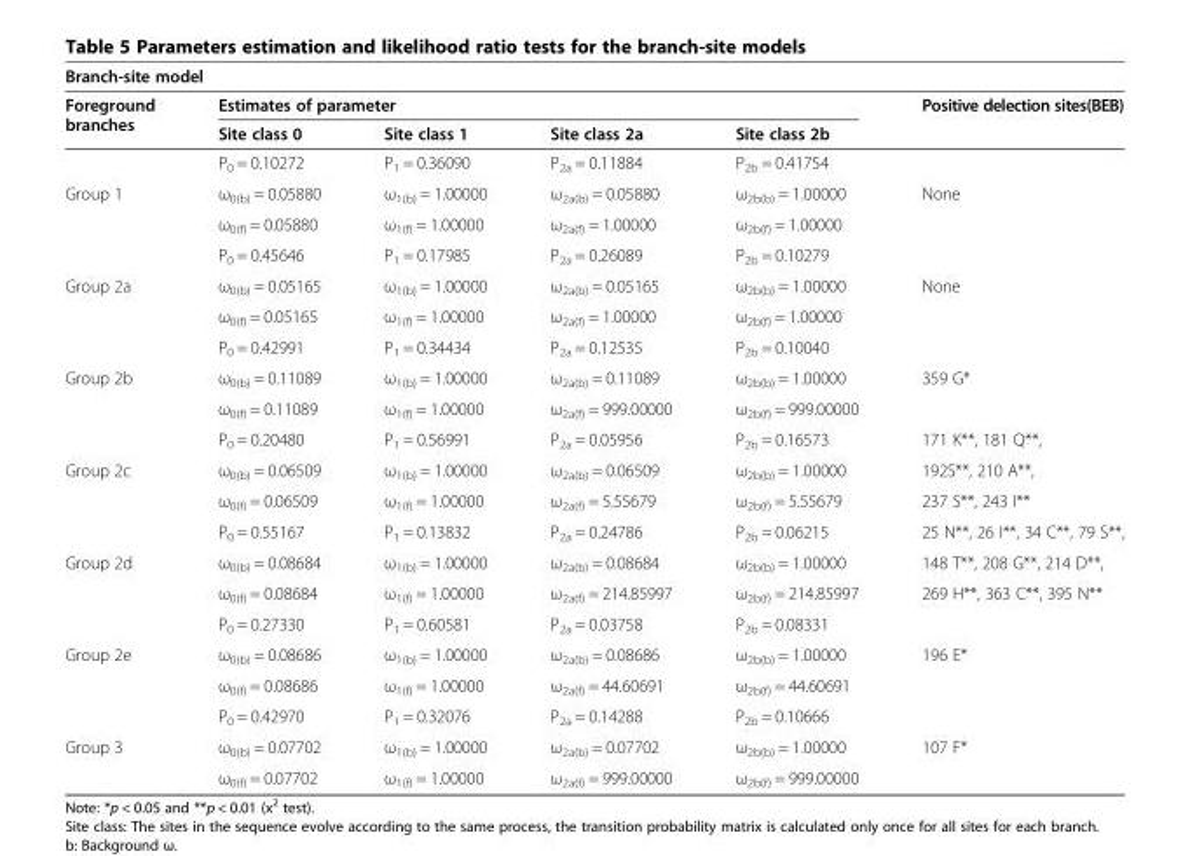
<table><thead><tr><td colspan="6">Branch-site model</td></tr><tr><td rowspan="2">Foreground branches</td><td colspan="4">Estimates of parameter</td><td rowspan="2">Positive delection sites(BEB)</td></tr><tr><td>Site class 0</td><td>Site class 1</td><td>Site class 2a</td><td>Site class 2b</td></tr></thead><tbody><tr><td></td><td>P<sub>0</sub> = 0.10272</td><td>P<sub>1</sub> = 0.36090</td><td>P<sub>2a</sub> = 0.11884</td><td>P<sub>2b</sub> = 0.41754</td><td></td></tr><tr><td rowspan="3">Group 1</td><td>ω<sub>0(b)</sub> = 0.05880</td><td>ω<sub>1(b)</sub> = 1.00000</td><td>ω<sub>2a(b)</sub> = 0.05880</td><td>ω<sub>2b(b)</sub> = 1.00000</td><td>None</td></tr><tr><td>ω<sub>0(f)</sub> = 0.05880</td><td>ω<sub>1(f)</sub> = 1.00000</td><td>ω<sub>2a(f)</sub> = 1.00000</td><td>ω<sub>2b(f)</sub> = 1.00000</td><td></td></tr><tr><td>P<sub>0</sub> = 0.45646</td><td>P<sub>1</sub> = 0.17985</td><td>P<sub>2a</sub> = 0.26089</td><td>P<sub>2b</sub> = 0.10279</td><td></td></tr><tr><td rowspan="3">Group 2a</td><td>ω<sub>0(b)</sub> = 0.05165</td><td>ω<sub>1(b)</sub> = 1.00000</td><td>ω<sub>2a(b)</sub> = 0.05165</td><td>ω<sub>2b(b)</sub> = 1.00000</td><td>None</td></tr><tr><td>ω<sub>0(f)</sub> = 0.05165</td><td>ω<sub>1(f)</sub> = 1.00000</td><td>ω<sub>2a(f)</sub> = 1.00000</td><td>ω<sub>2b(f)</sub> = 1.00000</td><td></td></tr><tr><td>P<sub>0</sub> = 0.42991</td><td>P<sub>1</sub> = 0.34434</td><td>P<sub>2a</sub> = 0.12535</td><td>P<sub>2b</sub> = 0.10040</td><td></td></tr><tr><td rowspan="3">Group 2b</td><td>ω<sub>0(b)</sub> = 0.11089</td><td>ω<sub>1(b)</sub> = 1.00000</td><td>ω<sub>2a(b)</sub> = 0.11089</td><td>ω<sub>2b(b)</sub> = 1.00000</td><td>359 G*</td></tr><tr><td>ω<sub>0(f)</sub> = 0.11089</td><td>ω<sub>1(f)</sub> = 1.00000</td><td>ω<sub>2a(f)</sub> = 999.00000</td><td>ω<sub>2b(f)</sub> = 999.00000</td><td></td></tr><tr><td>P<sub>0</sub> = 0.20480</td><td>P<sub>1</sub> = 0.56991</td><td>P<sub>2a</sub> = 0.05956</td><td>P<sub>2b</sub> = 0.16573</td><td>171 K**, 181 Q**,</td></tr><tr><td rowspan="3">Group 2c</td><td>ω<sub>0(b)</sub> = 0.06509</td><td>ω<sub>1(b)</sub> = 1.00000</td><td>ω<sub>2a(b)</sub> = 0.06509</td><td>ω<sub>2b(b)</sub> = 1.00000</td><td>192S**, 210 A**,</td></tr><tr><td>ω<sub>0(f)</sub> = 0.06509</td><td>ω<sub>1(f)</sub> = 1.00000</td><td>ω<sub>2a(f)</sub> = 5.55679</td><td>ω<sub>2b(f)</sub> = 5.55679</td><td>237 S**, 243 I**</td></tr><tr><td>P<sub>0</sub> = 0.55167</td><td>P<sub>1</sub> = 0.13832</td><td>P<sub>2a</sub> = 0.24786</td><td>P<sub>2b</sub> = 0.06215</td><td>25 N**, 26 I**, 34 C**, 79 S**,</td></tr><tr><td rowspan="3">Group 2d</td><td>ω<sub>0(b)</sub> = 0.08684</td><td>ω<sub>1(b)</sub> = 1.00000</td><td>ω<sub>2a(b)</sub> = 0.08684</td><td>ω<sub>2b(b)</sub> = 1.00000</td><td>148 T**, 208 G**, 214 D**,</td></tr><tr><td>ω<sub>0(f)</sub> = 0.08684</td><td>ω<sub>1(f)</sub> = 1.00000</td><td>ω<sub>2a(f)</sub> = 214.85997</td><td>ω<sub>2b(f)</sub> = 214.85997</td><td>269 H**, 363 C**, 395 N**</td></tr><tr><td>P<sub>0</sub> = 0.27330</td><td>P<sub>1</sub> = 0.60581</td><td>P<sub>2a</sub> = 0.03758</td><td>P<sub>2b</sub> = 0.08331</td><td></td></tr><tr><td rowspan="3">Group 2e</td><td>ω<sub>0(b)</sub> = 0.08686</td><td>ω<sub>1(b)</sub> = 1.00000</td><td>ω<sub>2a(b)</sub> = 0.08686</td><td>ω<sub>2b(b)</sub> = 1.00000</td><td>196 E*</td></tr><tr><td>ω<sub>0(f)</sub> = 0.08686</td><td>ω<sub>1(f)</sub> = 1.00000</td><td>ω<sub>2a(f)</sub> = 44.60691</td><td>ω<sub>2b(f)</sub> = 44.60691</td><td></td></tr><tr><td>P<sub>0</sub> = 0.42970</td><td>P<sub>1</sub> = 0.32076</td><td>P<sub>2a</sub> = 0.14288</td><td>P<sub>2b</sub> = 0.10666</td><td></td></tr><tr><td rowspan="2">Group 3</td><td>ω<sub>0(b)</sub> = 0.07702</td><td>ω<sub>1(b)</sub> = 1.00000</td><td>ω<sub>2a(b)</sub> = 0.07702</td><td>ω<sub>2b(b)</sub> = 1.00000</td><td>107 F*</td></tr><tr><td>ω<sub>0(f)</sub> = 0.07702</td><td>ω<sub>1(f)</sub> = 1.00000</td><td>ω<sub>2a(f)</sub> = 999.00000</td><td>ω<sub>2b(f)</sub> = 999.00000</td><td></td></tr></tbody></table>